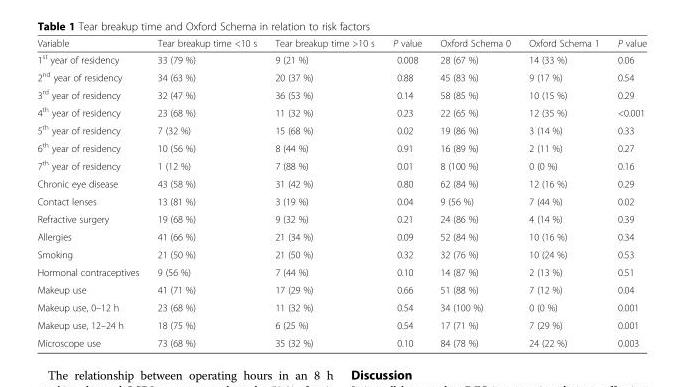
<table><thead><tr><td>Variable</td><td>Tear breakup time &lt;10 s</td><td>Tear breakup time &gt;10 s</td><td>P value</td><td>Oxford Schema 0</td><td>Oxford Schema 1</td><td>P value</td></tr></thead><tbody><tr><td>1<sup>st</sup> year of residency</td><td>33 (79 %)</td><td>9 (21 %)</td><td>0.008</td><td>28 (67 %)</td><td>14 (33 %)</td><td>0.06</td></tr><tr><td>2<sup>nd</sup> year of residency</td><td>34 (63 %)</td><td>20 (37 %)</td><td>0.88</td><td>45 (83 %)</td><td>9 (17 %)</td><td>0.54</td></tr><tr><td>3<sup>rd</sup> year of residency</td><td>32 (47 %)</td><td>36 (53 %)</td><td>0.14</td><td>58 (85 %)</td><td>10 (15 %)</td><td>0.29</td></tr><tr><td>4<sup>th</sup> year of residency</td><td>23 (68 %)</td><td>11 (32 %)</td><td>0.23</td><td>22 (65 %)</td><td>12 (35 %)</td><td>&lt;0.001</td></tr><tr><td>5<sup>th</sup> year of residency</td><td>7 (32 %)</td><td>15 (68 %)</td><td>0.02</td><td>19 (86 %)</td><td>3 (14 %)</td><td>0.33</td></tr><tr><td>6<sup>th</sup> year of residency</td><td>10 (56 %)</td><td>8 (44 %)</td><td>0.91</td><td>16 (89 %)</td><td>2 (11 %)</td><td>0.27</td></tr><tr><td>7<sup>th</sup> year of residency</td><td>1 (12 %)</td><td>7 (88 %)</td><td>0.01</td><td>8 (100 %)</td><td>0 (0 %)</td><td>0.16</td></tr><tr><td>Chronic eye disease</td><td>43 (58 %)</td><td>31 (42 %)</td><td>0.80</td><td>62 (84 %)</td><td>12 (16 %)</td><td>0.29</td></tr><tr><td>Contact lenses</td><td>13 (81 %)</td><td>3 (19 %)</td><td>0.04</td><td>9 (56 %)</td><td>7 (44 %)</td><td>0.02</td></tr><tr><td>Refractive surgery</td><td>19 (68 %)</td><td>9 (32 %)</td><td>0.21</td><td>24 (86 %)</td><td>4 (14 %)</td><td>0.39</td></tr><tr><td>Allergies</td><td>41 (66 %)</td><td>21 (34 %)</td><td>0.09</td><td>52 (84 %)</td><td>10 (16 %)</td><td>0.34</td></tr><tr><td>Smoking</td><td>21 (50 %)</td><td>21 (50 %)</td><td>0.32</td><td>32 (76 %)</td><td>10 (24 %)</td><td>0.53</td></tr><tr><td>Hormonal contraceptives</td><td>9 (56 %)</td><td>7 (44 %)</td><td>0.10</td><td>14 (87 %)</td><td>2 (13 %)</td><td>0.51</td></tr><tr><td>Makeup use</td><td>41 (71 %)</td><td>17 (29 %)</td><td>0.66</td><td>51 (88 %)</td><td>7 (12 %)</td><td>0.04</td></tr><tr><td>Makeup use, 0–12 h</td><td>23 (68 %)</td><td>11 (32 %)</td><td>0.54</td><td>34 (100 %)</td><td>0 (0 %)</td><td>0.001</td></tr><tr><td>Makeup use, 12–24 h</td><td>18 (75 %)</td><td>6 (25 %)</td><td>0.54</td><td>17 (71 %)</td><td>7 (29 %)</td><td>0.001</td></tr><tr><td>Microscope use</td><td>73 (68 %)</td><td>35 (32 %)</td><td>0.10</td><td>84 (78 %)</td><td>24 (22 %)</td><td>0.003</td></tr></tbody></table>